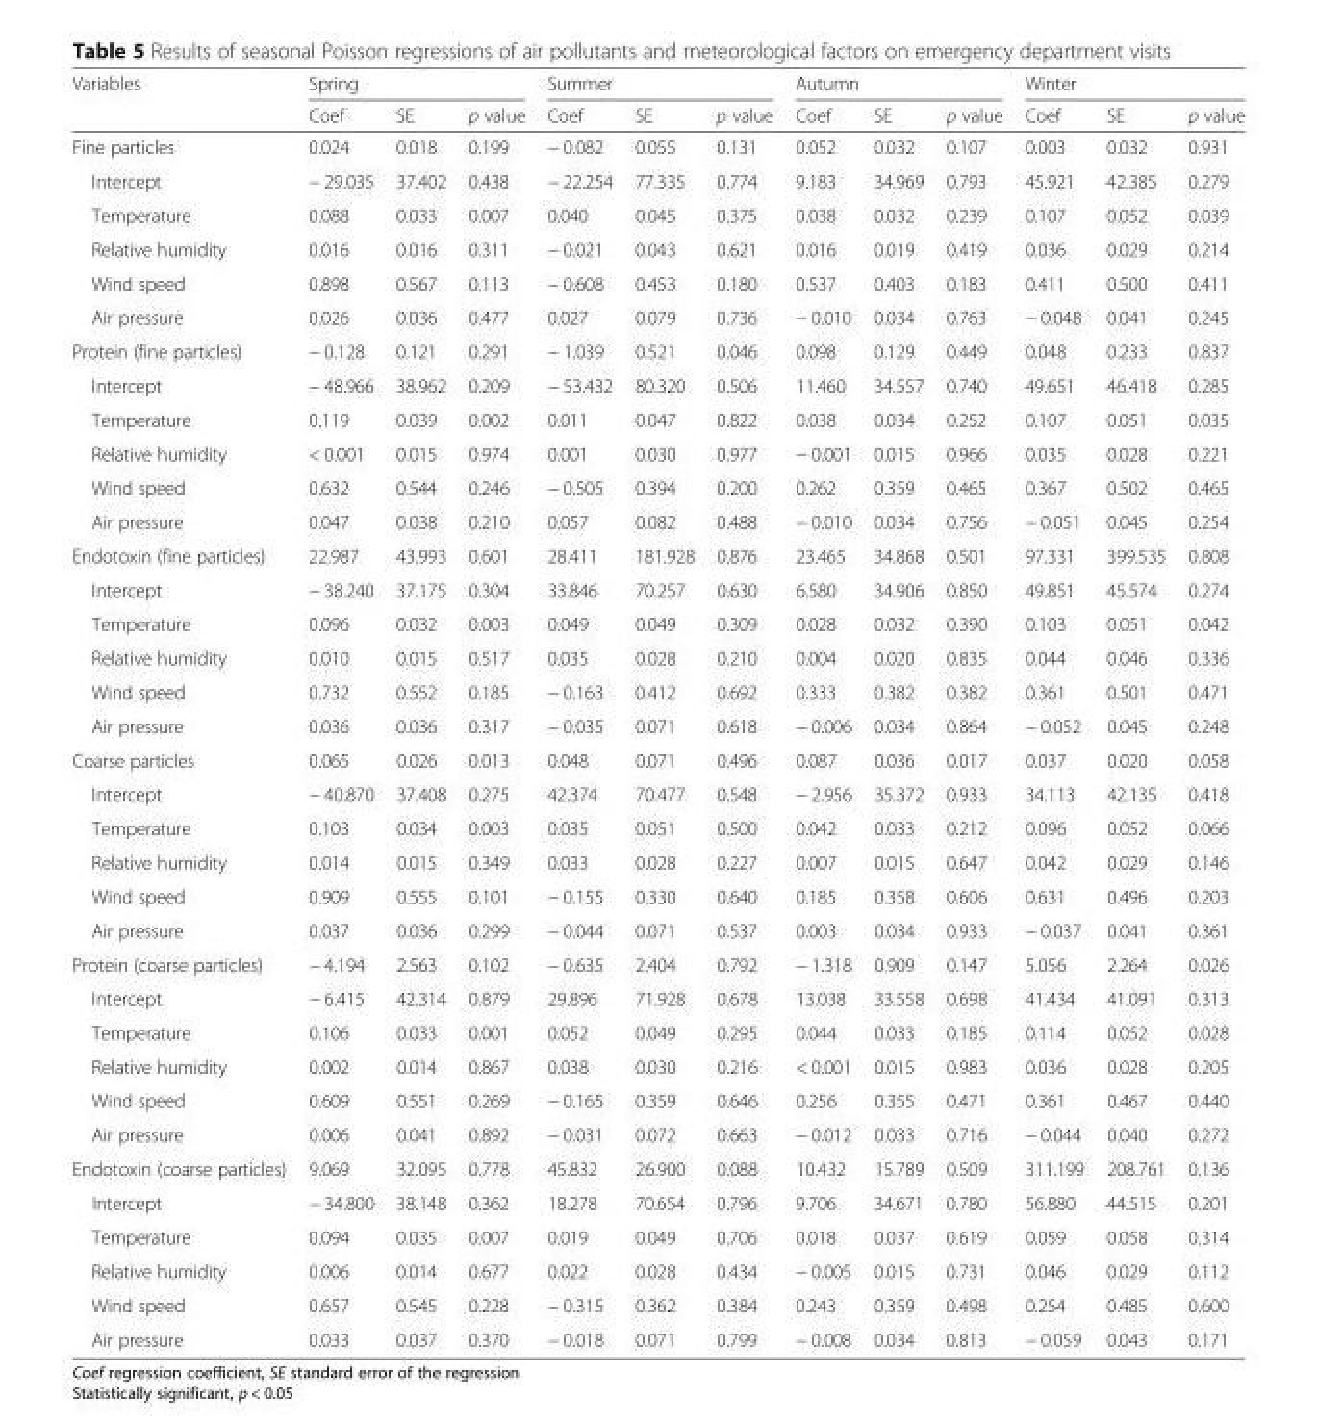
<table><thead><tr><td rowspan="2">Variables</td><td colspan="3">Spring</td><td colspan="3">Summer</td><td colspan="3">Autumn</td><td colspan="3">Winter</td></tr><tr><td>Coef</td><td>SE</td><td>p value</td><td>Coef</td><td>SE</td><td>p value</td><td>Coef</td><td>SE</td><td>p value</td><td>Coef</td><td>SE</td><td>p value</td></tr></thead><tbody><tr><td>Fine particles</td><td>0.024</td><td>0.018</td><td>0.199</td><td>− 0.082</td><td>0.055</td><td>0.131</td><td>0.052</td><td>0.032</td><td>0.107</td><td>0.003</td><td>0.032</td><td>0.931</td></tr><tr><td>Intercept</td><td>− 29.035</td><td>37.402</td><td>0.438</td><td>− 22.254</td><td>77.335</td><td>0.774</td><td>9.183</td><td>34.969</td><td>0.793</td><td>45.921</td><td>42.385</td><td>0.279</td></tr><tr><td>Temperature</td><td>0.088</td><td>0.033</td><td>0.007</td><td>0.040</td><td>0.045</td><td>0.375</td><td>0.038</td><td>0.032</td><td>0.239</td><td>0.107</td><td>0.052</td><td>0.039</td></tr><tr><td>Relative humidity</td><td>0.016</td><td>0.016</td><td>0.311</td><td>− 0.021</td><td>0.043</td><td>0.621</td><td>0.016</td><td>0.019</td><td>0.419</td><td>0.036</td><td>0.029</td><td>0.214</td></tr><tr><td>Wind speed</td><td>0.898</td><td>0.567</td><td>0.113</td><td>− 0.608</td><td>0.453</td><td>0.180</td><td>0.537</td><td>0.403</td><td>0.183</td><td>0.411</td><td>0.500</td><td>0.411</td></tr><tr><td>Air pressure</td><td>0.026</td><td>0.036</td><td>0.477</td><td>0.027</td><td>0.079</td><td>0.736</td><td>− 0.010</td><td>0.034</td><td>0.763</td><td>− 0.048</td><td>0.041</td><td>0.245</td></tr><tr><td>Protein (fine particles)</td><td>− 0.128</td><td>0.121</td><td>0.291</td><td>− 1.039</td><td>0.521</td><td>0.046</td><td>0.098</td><td>0.129</td><td>0.449</td><td>0.048</td><td>0.233</td><td>0.837</td></tr><tr><td>Intercept</td><td>− 48.966</td><td>38.962</td><td>0.209</td><td>− 53.432</td><td>80.320</td><td>0.506</td><td>11.460</td><td>34.557</td><td>0.740</td><td>49.651</td><td>46.418</td><td>0.285</td></tr><tr><td>Temperature</td><td>0.119</td><td>0.039</td><td>0.002</td><td>0.011</td><td>0.047</td><td>0.822</td><td>0.038</td><td>0.034</td><td>0.252</td><td>0.107</td><td>0.051</td><td>0.035</td></tr><tr><td>Relative humidity</td><td>&lt; 0.001</td><td>0.015</td><td>0.974</td><td>0.001</td><td>0.030</td><td>0.977</td><td>− 0.001</td><td>0.015</td><td>0.966</td><td>0.035</td><td>0.028</td><td>0.221</td></tr><tr><td>Wind speed</td><td>0.632</td><td>0.544</td><td>0.246</td><td>− 0.505</td><td>0.394</td><td>0.200</td><td>0.262</td><td>0.359</td><td>0.465</td><td>0.367</td><td>0.502</td><td>0.465</td></tr><tr><td>Air pressure</td><td>0.047</td><td>0.038</td><td>0.210</td><td>0.057</td><td>0.082</td><td>0.488</td><td>− 0.010</td><td>0.034</td><td>0.756</td><td>− 0.051</td><td>0.045</td><td>0.254</td></tr><tr><td>Endotoxin (fine particles)</td><td>22.987</td><td>43.993</td><td>0.601</td><td>28.411</td><td>181.928</td><td>0.876</td><td>23.465</td><td>34.868</td><td>0.501</td><td>97.331</td><td>399.535</td><td>0.808</td></tr><tr><td>Intercept</td><td>− 38.240</td><td>37.175</td><td>0.304</td><td>33.846</td><td>70.257</td><td>0.630</td><td>6.580</td><td>34.906</td><td>0.850</td><td>49.851</td><td>45.574</td><td>0.274</td></tr><tr><td>Temperature</td><td>0.096</td><td>0.032</td><td>0.003</td><td>0.049</td><td>0.049</td><td>0.309</td><td>0.028</td><td>0.032</td><td>0.390</td><td>0.103</td><td>0.051</td><td>0.042</td></tr><tr><td>Relative humidity</td><td>0.010</td><td>0.015</td><td>0.517</td><td>0.035</td><td>0.028</td><td>0.210</td><td>0.004</td><td>0.020</td><td>0.835</td><td>0.044</td><td>0.046</td><td>0.336</td></tr><tr><td>Wind speed</td><td>0.732</td><td>0.552</td><td>0.185</td><td>− 0.163</td><td>0.412</td><td>0.692</td><td>0.333</td><td>0.382</td><td>0.382</td><td>0.361</td><td>0.501</td><td>0.471</td></tr><tr><td>Air pressure</td><td>0.036</td><td>0.036</td><td>0.317</td><td>− 0.035</td><td>0.071</td><td>0.618</td><td>− 0.006</td><td>0.034</td><td>0.864</td><td>− 0.052</td><td>0.045</td><td>0.248</td></tr><tr><td>Coarse particles</td><td>0.065</td><td>0.026</td><td>0.013</td><td>0.048</td><td>0.071</td><td>0.496</td><td>0.087</td><td>0.036</td><td>0.017</td><td>0.037</td><td>0.020</td><td>0.058</td></tr><tr><td>Intercept</td><td>− 40.870</td><td>37.408</td><td>0.275</td><td>42.374</td><td>70.477</td><td>0.548</td><td>− 2.956</td><td>35.372</td><td>0.933</td><td>34.113</td><td>42.135</td><td>0.418</td></tr><tr><td>Temperature</td><td>0.103</td><td>0.034</td><td>0.003</td><td>0.035</td><td>0.051</td><td>0.500</td><td>0.042</td><td>0.033</td><td>0.212</td><td>0.096</td><td>0.052</td><td>0.066</td></tr><tr><td>Relative humidity</td><td>0.014</td><td>0.015</td><td>0.349</td><td>0.033</td><td>0.028</td><td>0.227</td><td>0.007</td><td>0.015</td><td>0.647</td><td>0.042</td><td>0.029</td><td>0.146</td></tr><tr><td>Wind speed</td><td>0.909</td><td>0.555</td><td>0.101</td><td>− 0.155</td><td>0.330</td><td>0.640</td><td>0.185</td><td>0.358</td><td>0.606</td><td>0.631</td><td>0.496</td><td>0.203</td></tr><tr><td>Air pressure</td><td>0.037</td><td>0.036</td><td>0.299</td><td>− 0.044</td><td>0.071</td><td>0.537</td><td>0.003</td><td>0.034</td><td>0.933</td><td>− 0.037</td><td>0.041</td><td>0.361</td></tr><tr><td>Protein (coarse particles)</td><td>− 4.194</td><td>2.563</td><td>0.102</td><td>− 0.635</td><td>2.404</td><td>0.792</td><td>− 1.318</td><td>0.909</td><td>0.147</td><td>5.056</td><td>2.264</td><td>0.026</td></tr><tr><td>Intercept</td><td>− 6.415</td><td>42.314</td><td>0.879</td><td>29.896</td><td>71.928</td><td>0.678</td><td>13.038</td><td>33.558</td><td>0.698</td><td>41.434</td><td>41.091</td><td>0.313</td></tr><tr><td>Temperature</td><td>0.106</td><td>0.033</td><td>0.001</td><td>0.052</td><td>0.049</td><td>0.295</td><td>0.044</td><td>0.033</td><td>0.185</td><td>0.114</td><td>0.052</td><td>0.028</td></tr><tr><td>Relative humidity</td><td>0.002</td><td>0.014</td><td>0.867</td><td>0.038</td><td>0.030</td><td>0.216</td><td>&lt; 0.001</td><td>0.015</td><td>0.983</td><td>0.036</td><td>0.028</td><td>0.205</td></tr><tr><td>Wind speed</td><td>0.609</td><td>0.551</td><td>0.269</td><td>− 0.165</td><td>0.359</td><td>0.646</td><td>0.256</td><td>0.355</td><td>0.471</td><td>0.361</td><td>0.467</td><td>0.440</td></tr><tr><td>Air pressure</td><td>0.006</td><td>0.041</td><td>0.892</td><td>− 0.031</td><td>0.072</td><td>0.663</td><td>− 0.012</td><td>0.033</td><td>0.716</td><td>− 0.044</td><td>0.040</td><td>0.272</td></tr><tr><td>Endotoxin (coarse particles)</td><td>9.069</td><td>32.095</td><td>0.778</td><td>45.832</td><td>26.900</td><td>0.088</td><td>10.432</td><td>15.789</td><td>0.509</td><td>311.199</td><td>208.761</td><td>0.136</td></tr><tr><td>Intercept</td><td>− 34.800</td><td>38.148</td><td>0.362</td><td>18.278</td><td>70.654</td><td>0.796</td><td>9.706</td><td>34.671</td><td>0.780</td><td>56.880</td><td>44.515</td><td>0.201</td></tr><tr><td>Temperature</td><td>0.094</td><td>0.035</td><td>0.007</td><td>0.019</td><td>0.049</td><td>0.706</td><td>0.018</td><td>0.037</td><td>0.619</td><td>0.059</td><td>0.058</td><td>0.314</td></tr><tr><td>Relative humidity</td><td>0.006</td><td>0.014</td><td>0.677</td><td>0.022</td><td>0.028</td><td>0.434</td><td>− 0.005</td><td>0.015</td><td>0.731</td><td>0.046</td><td>0.029</td><td>0.112</td></tr><tr><td>Wind speed</td><td>0.657</td><td>0.545</td><td>0.228</td><td>− 0.315</td><td>0.362</td><td>0.384</td><td>0.243</td><td>0.359</td><td>0.498</td><td>0.254</td><td>0.485</td><td>0.600</td></tr><tr><td>Air pressure</td><td>0.033</td><td>0.037</td><td>0.370</td><td>− 0.018</td><td>0.071</td><td>0.799</td><td>− 0.008</td><td>0.034</td><td>0.813</td><td>− 0.059</td><td>0.043</td><td>0.171</td></tr></tbody></table>